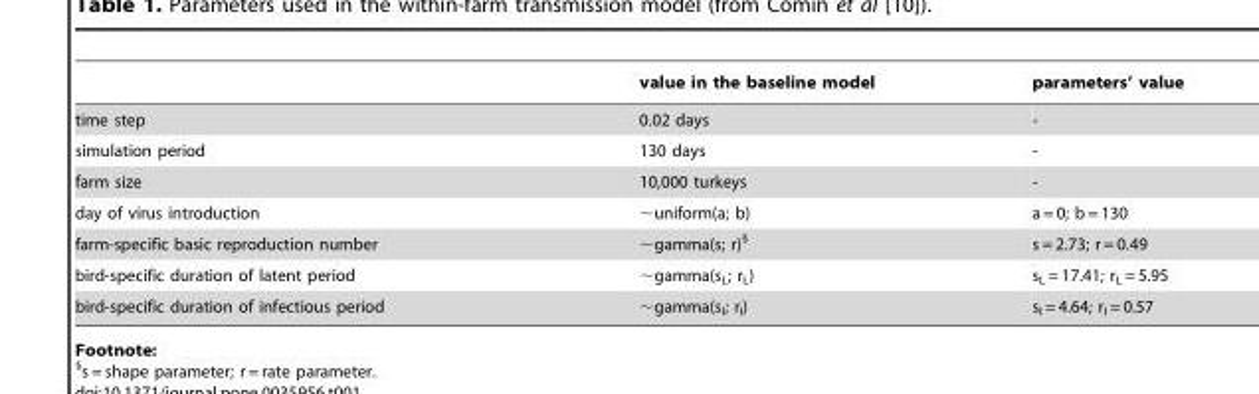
<table><thead><tr><td></td><td>value in the baseline model</td><td>parameters’ value</td></tr></thead><tbody><tr><td>time step</td><td>0.02 days</td><td>-</td></tr><tr><td>simulation period</td><td>130 days</td><td>-</td></tr><tr><td>farm size</td><td>10,000 turkeys</td><td>-</td></tr><tr><td>day of virus introduction</td><td>∼uniform(a; b)</td><td>a = 0; b = 130</td></tr><tr><td>farm-specific basic reproduction number</td><td>∼gamma(s; r)§</td><td>s = 2.73; r = 0.49</td></tr><tr><td>bird-specific duration of latent period</td><td>∼gamma(s<sub>L</sub>; r<sub>L</sub>)</td><td>s<sub>L</sub> = 17.41; r<sub>L</sub> = 5.95</td></tr><tr><td>bird-specific duration of infectious period</td><td>∼gamma(s<sub>I</sub>; r<sub>I</sub>)</td><td>s<sub>I</sub> = 4.64; r<sub>I</sub> = 0.57</td></tr></tbody></table>